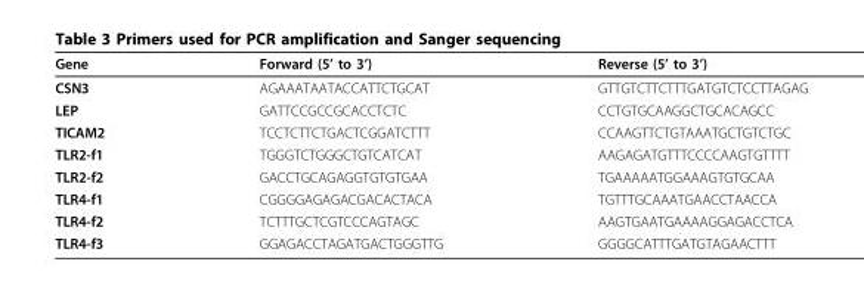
<table><thead><tr><td>Gene</td><td>Forward (5’ to 3’)</td><td>Reverse (5’ to 3’)</td></tr></thead><tbody><tr><td>CSN3</td><td>AGAAATAATACCATTCTGCAT</td><td>GTTGTCTTCTTTGATGTCTCCTTAGAG</td></tr><tr><td>LEP</td><td>GATTCCGCCGCACCTCTC</td><td>CCTGTGCAAGGCTGCACAGCC</td></tr><tr><td>TICAM2</td><td>TCCTCTTCTGACTCGGATCTTT</td><td>CCAAGTTCTGTAAATGCTGTCTGC</td></tr><tr><td>TLR2-f1</td><td>TGGGTCTGGGCTGTCATCAT</td><td>AAGAGATGTTTCCCCAAGTGTTTT</td></tr><tr><td>TLR2-f2</td><td>GACCTGCAGAGGTGTGTGAA</td><td>TGAAAAATGGAAAGTGTGCAA</td></tr><tr><td>TLR4-f1</td><td>CGGGGAGAGACGACACTACA</td><td>TGTTTGCAAATGAACCTAACCA</td></tr><tr><td>TLR4-f2</td><td>TCTTTGCTCGTCCCAGTAGC</td><td>AAGTGAATGAAAAGGAGACCTCA</td></tr><tr><td>TLR4-f3</td><td>GGAGACCTAGATGACTGGGTTG</td><td>GGGGCATTTGATGTAGAACTTT</td></tr></tbody></table>